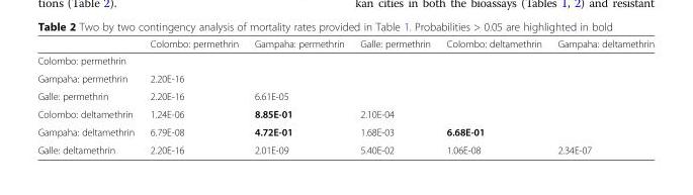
<table><thead><tr><td></td><td>Colombo: permethrin</td><td>Gampaha: permethrin</td><td>Galle: permethrin</td><td>Colombo: deltamethrin</td><td>Gampaha: deltamethrin</td></tr></thead><tbody><tr><td colspan="6">Colombo: permethrin</td></tr><tr><td>Gampaha: permethrin</td><td>2.20E-16</td><td></td><td></td><td></td><td></td></tr><tr><td>Galle: permethrin</td><td>2.20E-16</td><td>6.61E-05</td><td></td><td></td><td></td></tr><tr><td>Colombo: deltamethrin</td><td>1.24E-06</td><td>8.85E-01</td><td>2.10E-04</td><td></td><td></td></tr><tr><td>Gampaha: deltamethrin</td><td>6.79E-08</td><td>4.72E-01</td><td>1.68E-03</td><td>6.68E-01</td><td></td></tr><tr><td>Galle: deltamethrin</td><td>2.20E-16</td><td>2.01E-09</td><td>5.40E-02</td><td>1.06E-08</td><td>2.34E-07</td></tr></tbody></table>